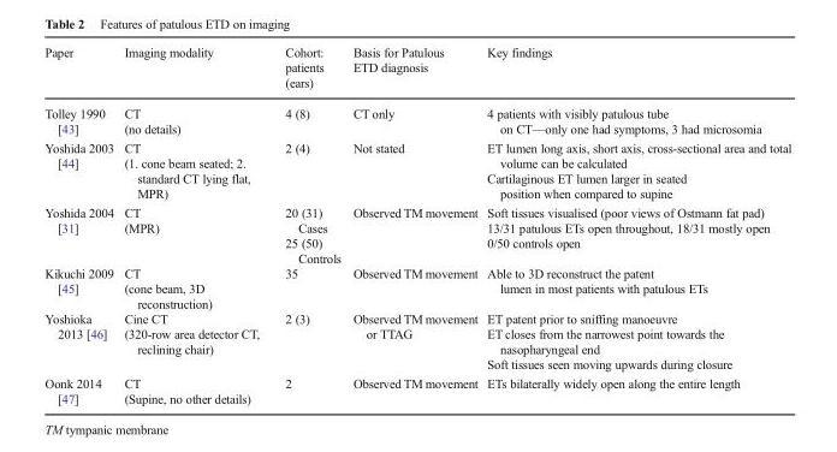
<table><thead><tr><td>Paper</td><td>Imaging modality</td><td>Cohort: patients (ears)</td><td>Basis for Patulous ETD diagnosis</td><td>Key findings</td></tr></thead><tbody><tr><td>Tolley 1990 [43]</td><td>CT (no details)</td><td>4 (8)</td><td>CT only</td><td>4 patients with visibly patulous tube on CT—only one had symptoms, 3 had microsomia</td></tr><tr><td>Yoshida 2003 [44]</td><td>CT (1. cone beam seated; 2. standard CT lying flat, MPR)</td><td>2 (4)</td><td>Not stated</td><td>ET lumen long axis, short axis, cross-sectional area and total volume can be calculated Cartilaginous ET lumen larger in seated position when compared to supine</td></tr><tr><td>Yoshida 2004 [31]</td><td>CT (MPR)</td><td>20 (31) Cases 25 (50) Controls</td><td>Observed TM movement</td><td>Soft tissues visualised (poor views of Ostmann fat pad) 13/31 patulous ETs open throughout, 18/31 mostly open 0/50 controls open</td></tr><tr><td>Kikuchi 2009 [45]</td><td>CT (cone beam, 3D reconstruction)</td><td>35</td><td>Observed TM movement</td><td>Able to 3D reconstruct the patent lumen in most patients with patulous ETs</td></tr><tr><td>Yoshioka 2013 [46]</td><td>Cine CT (320-row area detector CT, reclining chair)</td><td>2 (3)</td><td>Observed TM movement or TTAG</td><td>ET patent prior to sniffing manoeuvre ET closes from the narrowest point towards the nasopharyngeal end Soft tissues seen moving upwards during closure</td></tr><tr><td>Oonk 2014 [47]</td><td>CT (Supine, no other details)</td><td>2</td><td>Observed TM movement</td><td>ETs bilaterally widely open along the entire length</td></tr></tbody></table>